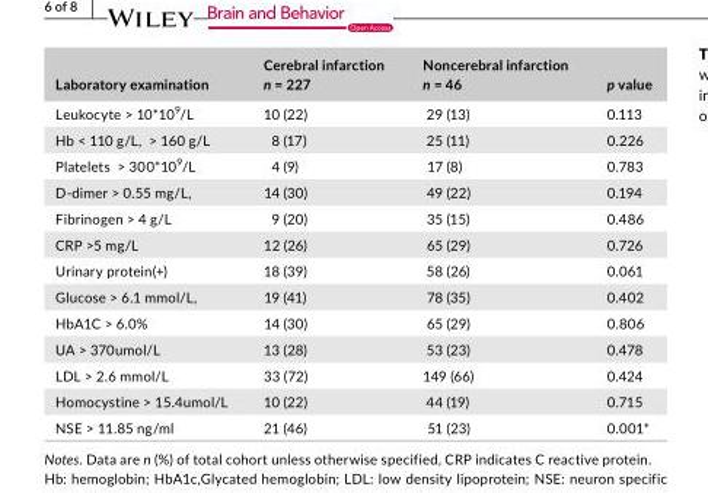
<table><thead><tr><td>Laboratory examination</td><td>Cerebral infarction n = 227</td><td>Noncerebral infarction n = 46</td><td>p value</td></tr></thead><tbody><tr><td>Leukocyte &gt; 10*10<sup>9</sup>/L</td><td>10 (22)</td><td>29 (13)</td><td>0.113</td></tr><tr><td>Hb &lt; 110 g/L, &gt; 160 g/L</td><td>8 (17)</td><td>25 (11)</td><td>0.226</td></tr><tr><td>Platelets &gt; 300*10<sup>9</sup>/L</td><td>4 (9)</td><td>17 (8)</td><td>0.783</td></tr><tr><td>D- dimer &gt; 0.55 mg/L,</td><td>14 (30)</td><td>49 (22)</td><td>0.194</td></tr><tr><td>Fibrinogen &gt; 4 g/L</td><td>9 (20)</td><td>35 (15)</td><td>0.486</td></tr><tr><td>CRP &gt;5 mg/L</td><td>12 (26)</td><td>65 (29)</td><td>0.726</td></tr><tr><td>Urinary protein(+)</td><td>18 (39)</td><td>58 (26)</td><td>0.061</td></tr><tr><td>Glucose &gt; 6.1 mmol/L,</td><td>19 (41)</td><td>78 (35)</td><td>0.402</td></tr><tr><td>HbA1C &gt; 6.0%</td><td>14 (30)</td><td>65 (29)</td><td>0.806</td></tr><tr><td>UA &gt; 370umol/L</td><td>13 (28)</td><td>53 (23)</td><td>0.478</td></tr><tr><td>LDL &gt; 2.6 mmol/L</td><td>33 (72)</td><td>149 (66)</td><td>0.424</td></tr><tr><td>Homocystine &gt; 15.4umol/L</td><td>10 (22)</td><td>44 (19)</td><td>0.715</td></tr><tr><td>NSE &gt; 11.85 ng/ml</td><td>21 (46)</td><td>51 (23)</td><td>0.001*</td></tr></tbody></table>